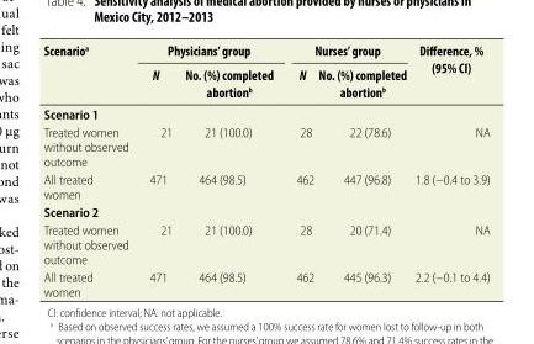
<table><thead><tr><td rowspan="2">Scenario<sup>a</sup></td><td colspan="2">Physicians’ group</td><td colspan="2">Nurses’ group</td><td rowspan="2">Difference, % (95% CI)</td></tr><tr><td>N</td><td>No. (%) completed abortion<sup>b</sup></td><td>N</td><td>No. (%) completed abortion<sup>b</sup></td></tr></thead><tbody><tr><td colspan="6">Scenario 1</td></tr><tr><td>Treated women without observed outcome</td><td>21</td><td>21 (100.0)</td><td>28</td><td>22 (78.6)</td><td>NA</td></tr><tr><td>All treated women</td><td>471</td><td>464 (98.5)</td><td>462</td><td>447 (96.8)</td><td>1.8 (−0.4 to 3.9)</td></tr><tr><td colspan="6">Scenario 2</td></tr><tr><td>Treated women without observed outcome</td><td>21</td><td>21 (100.0)</td><td>28</td><td>20 (71.4)</td><td>NA</td></tr><tr><td>All treated women</td><td>471</td><td>464 (98.5)</td><td>462</td><td>445 (96.3)</td><td>2.2 (−0.1 to 4.4)</td></tr></tbody></table>